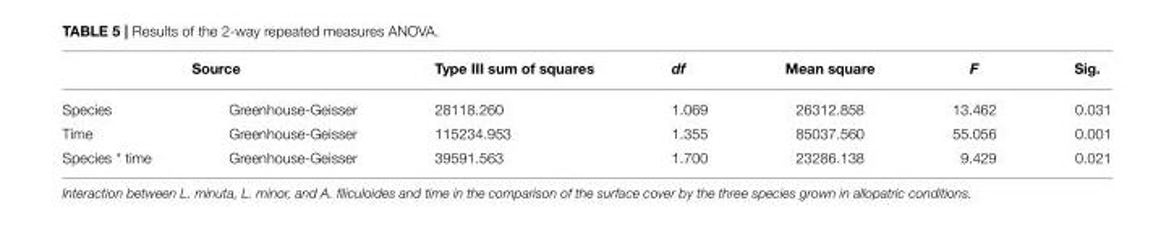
<table><thead><tr><td colspan="2">Source</td><td rowspan="2">Type III sum of squares 28118.260</td><td rowspan="2">df 1.069</td><td rowspan="2">Mean square 26312.858</td><td rowspan="2">F 13.462</td><td rowspan="2">Sig. 0.031</td></tr><tr><td>Species</td><td>Greenhouse-Geisser</td></tr></thead><tbody><tr><td>Time</td><td>Greenhouse-Geisser</td><td>115234.953</td><td>1.355</td><td>85037.560</td><td>55.056</td><td>0.001</td></tr><tr><td>Species * time</td><td>Greenhouse-Geisser</td><td>39591.563</td><td>1.700</td><td>23286.138</td><td>9.429</td><td>0.021</td></tr></tbody></table>